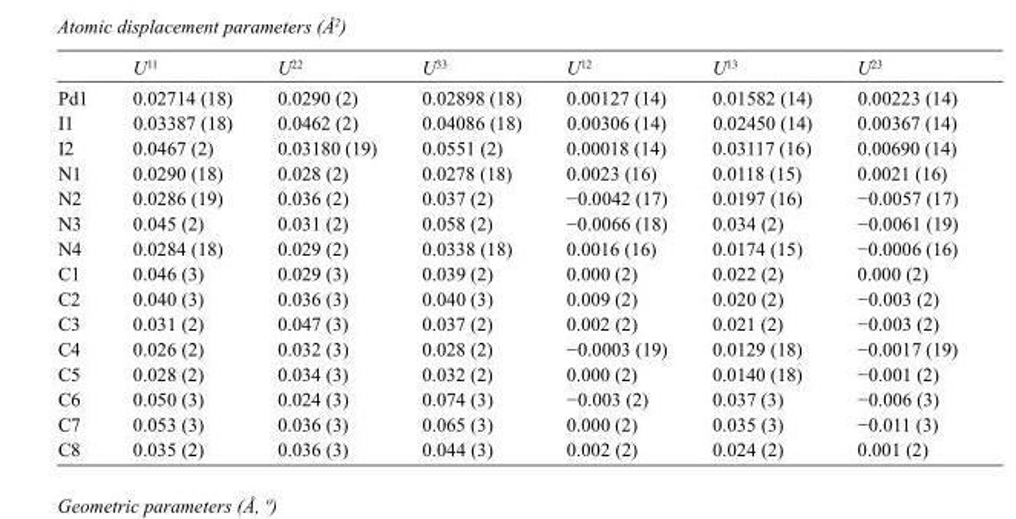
<table><thead><tr><td></td><td>U<sup>11</sup></td><td>U<sup>22</sup></td><td>U<sup>33</sup></td><td>U<sup>12</sup></td><td>U<sup>13</sup></td><td>U<sup>23</sup></td></tr></thead><tbody><tr><td>Pd1</td><td>0.02714 (18)</td><td>0.0290 (2)</td><td>0.02898 (18)</td><td>0.00127 (14)</td><td>0.01582 (14)</td><td>0.00223 (14)</td></tr><tr><td>I1</td><td>0.03387 (18)</td><td>0.0462 (2)</td><td>0.04086 (18)</td><td>0.00306 (14)</td><td>0.02450 (14)</td><td>0.00367 (14)</td></tr><tr><td>I2</td><td>0.0467 (2)</td><td>0.03180 (19)</td><td>0.0551 (2)</td><td>0.00018 (14)</td><td>0.03117 (16)</td><td>0.00690 (14)</td></tr><tr><td>N1</td><td>0.0290 (18)</td><td>0.028 (2)</td><td>0.0278 (18)</td><td>0.0023 (16)</td><td>0.0118 (15)</td><td>0.0021 (16)</td></tr><tr><td>N2</td><td>0.0286 (19)</td><td>0.036 (2)</td><td>0.037 (2)</td><td>−0.0042 (17)</td><td>0.0197 (16)</td><td>−0.0057 (17)</td></tr><tr><td>N3</td><td>0.045 (2)</td><td>0.031 (2)</td><td>0.058 (2)</td><td>−0.0066 (18)</td><td>0.034 (2)</td><td>−0.0061 (19)</td></tr><tr><td>N4</td><td>0.0284 (18)</td><td>0.029 (2)</td><td>0.0338 (18)</td><td>0.0016 (16)</td><td>0.0174 (15)</td><td>−0.0006 (16)</td></tr><tr><td>C1</td><td>0.046 (3)</td><td>0.029 (3)</td><td>0.039 (2)</td><td>0.000 (2)</td><td>0.022 (2)</td><td>0.000 (2)</td></tr><tr><td>C2</td><td>0.040 (3)</td><td>0.036 (3)</td><td>0.040 (3)</td><td>0.009 (2)</td><td>0.020 (2)</td><td>−0.003 (2)</td></tr><tr><td>C3</td><td>0.031 (2)</td><td>0.047 (3)</td><td>0.037 (2)</td><td>0.002 (2)</td><td>0.021 (2)</td><td>−0.003 (2)</td></tr><tr><td>C4</td><td>0.026 (2)</td><td>0.032 (3)</td><td>0.028 (2)</td><td>−0.0003 (19)</td><td>0.0129 (18)</td><td>−0.0017 (19)</td></tr><tr><td>C5</td><td>0.028 (2)</td><td>0.034 (3)</td><td>0.032 (2)</td><td>0.000 (2)</td><td>0.0140 (18)</td><td>−0.001 (2)</td></tr><tr><td>C6</td><td>0.050 (3)</td><td>0.024 (3)</td><td>0.074 (3)</td><td>−0.003 (2)</td><td>0.037 (3)</td><td>−0.006 (3)</td></tr><tr><td>C7</td><td>0.053 (3)</td><td>0.036 (3)</td><td>0.065 (3)</td><td>0.000 (2)</td><td>0.035 (3)</td><td>−0.011 (3)</td></tr><tr><td>C8</td><td>0.035 (2)</td><td>0.036 (3)</td><td>0.044 (3)</td><td>0.002 (2)</td><td>0.024 (2)</td><td>0.001 (2)</td></tr></tbody></table>